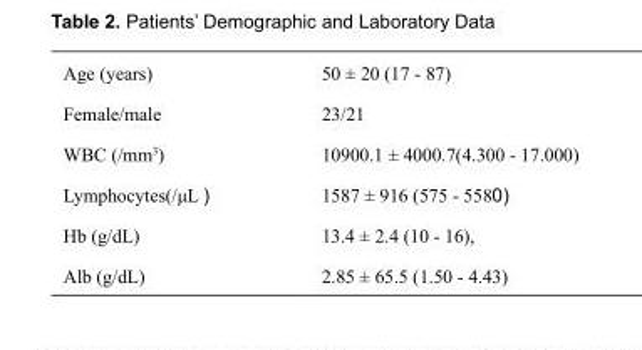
<table><tbody><tr><td>Age (years)</td><td>50 ± 20 (17 - 87)</td></tr><tr><td>Female/male</td><td>23/21</td></tr><tr><td>WBC (/mm<sup>3</sup>)</td><td>10900.1 ± 4000.7(4.300 - 17.000)</td></tr><tr><td>Lymphocytes(/μL )</td><td>1587 ± 916 (575 - 5580)</td></tr><tr><td>Hb (g/dL)</td><td>13.4 ± 2.4 (10 - 16),</td></tr><tr><td>Alb (g/dL)</td><td>2.85 ± 65.5 (1.50 - 4.43)</td></tr></tbody></table>